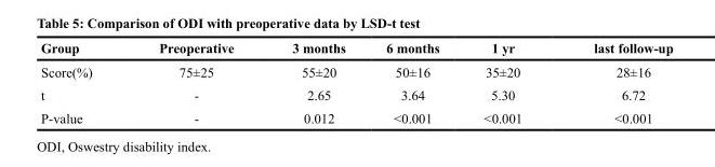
<table><thead><tr><td>Group</td><td>Preoperative</td><td>3 months</td><td>6 months</td><td>1 yr</td><td>last follow-up</td></tr></thead><tbody><tr><td>Score(%)</td><td>75±25</td><td>55±20</td><td>50±16</td><td>35±20</td><td>28±16</td></tr><tr><td>t</td><td>-</td><td>2.65</td><td>3.64</td><td>5.30</td><td>6.72</td></tr><tr><td>P-value</td><td>-</td><td>0.012</td><td>&lt;0.001</td><td>&lt;0.001</td><td>&lt;0.001</td></tr></tbody></table>